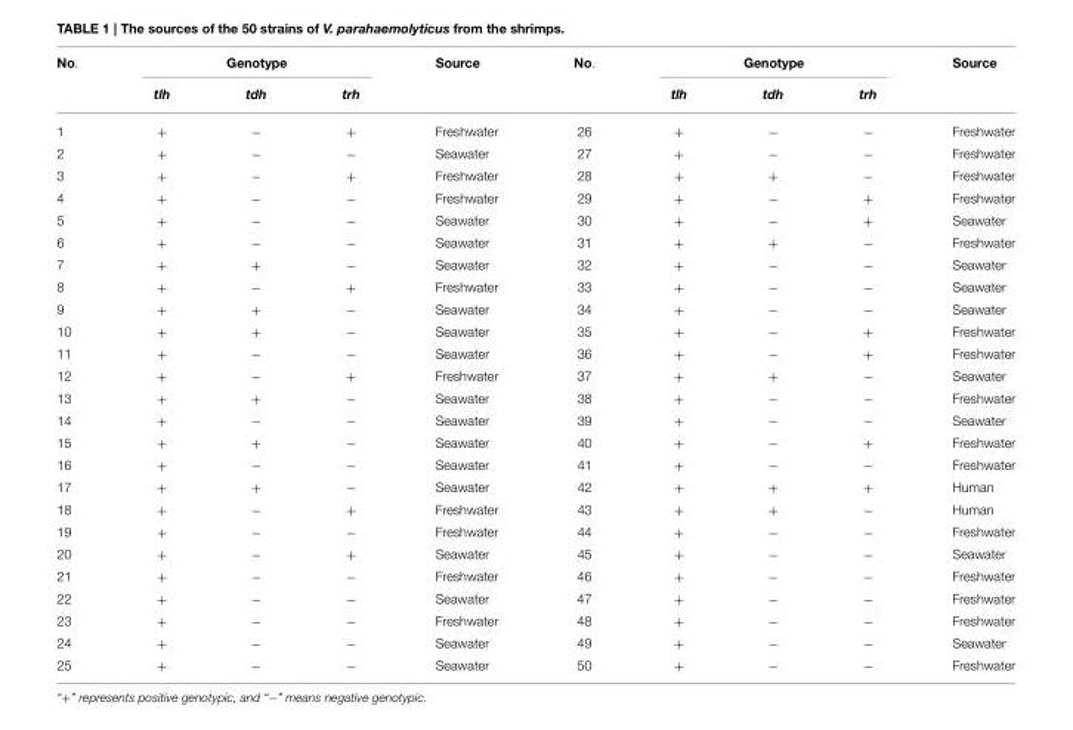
<table><thead><tr><td rowspan="2">No.</td><td colspan="3">Genotype</td><td rowspan="2">Source</td><td rowspan="2">No.</td><td colspan="3">Genotype</td><td rowspan="2">Source</td></tr><tr><td>tlh</td><td>tdh</td><td>trh</td><td>tlh</td><td>tdh</td><td>trh</td></tr></thead><tbody><tr><td>1</td><td>+</td><td>−</td><td>+</td><td>Freshwater</td><td>26</td><td>+</td><td>−</td><td>−</td><td>Freshwater</td></tr><tr><td>2</td><td>+</td><td>−</td><td>−</td><td>Seawater</td><td>27</td><td>+</td><td>−</td><td>−</td><td>Freshwater</td></tr><tr><td>3</td><td>+</td><td>−</td><td>+</td><td>Freshwater</td><td>28</td><td>+</td><td>+</td><td>−</td><td>Freshwater</td></tr><tr><td>4</td><td>+</td><td>−</td><td>−</td><td>Freshwater</td><td>29</td><td>+</td><td>−</td><td>+</td><td>Freshwater</td></tr><tr><td>5</td><td>+</td><td>−</td><td>−</td><td>Seawater</td><td>30</td><td>+</td><td>−</td><td>+</td><td>Seawater</td></tr><tr><td>6</td><td>+</td><td>−</td><td>−</td><td>Seawater</td><td>31</td><td>+</td><td>+</td><td>−</td><td>Freshwater</td></tr><tr><td>7</td><td>+</td><td>+</td><td>−</td><td>Seawater</td><td>32</td><td>+</td><td>−</td><td>−</td><td>Seawater</td></tr><tr><td>8</td><td>+</td><td>−</td><td>+</td><td>Freshwater</td><td>33</td><td>+</td><td>−</td><td>−</td><td>Seawater</td></tr><tr><td>9</td><td>+</td><td>+</td><td>−</td><td>Seawater</td><td>34</td><td>+</td><td>−</td><td>−</td><td>Seawater</td></tr><tr><td>10</td><td>+</td><td>+</td><td>−</td><td>Seawater</td><td>35</td><td>+</td><td>−</td><td>+</td><td>Freshwater</td></tr><tr><td>11</td><td>+</td><td>−</td><td>−</td><td>Seawater</td><td>36</td><td>+</td><td>−</td><td>+</td><td>Freshwater</td></tr><tr><td>12</td><td>+</td><td>−</td><td>+</td><td>Freshwater</td><td>37</td><td>+</td><td>+</td><td>−</td><td>Seawater</td></tr><tr><td>13</td><td>+</td><td>+</td><td>−</td><td>Seawater</td><td>38</td><td>+</td><td>−</td><td>−</td><td>Freshwater</td></tr><tr><td>14</td><td>+</td><td>−</td><td>−</td><td>Seawater</td><td>39</td><td>+</td><td>−</td><td>−</td><td>Seawater</td></tr><tr><td>15</td><td>+</td><td>+</td><td>−</td><td>Seawater</td><td>40</td><td>+</td><td>−</td><td>+</td><td>Freshwater</td></tr><tr><td>16</td><td>+</td><td>−</td><td>−</td><td>Seawater</td><td>41</td><td>+</td><td>−</td><td>−</td><td>Freshwater</td></tr><tr><td>17</td><td>+</td><td>+</td><td>−</td><td>Seawater</td><td>42</td><td>+</td><td>+</td><td>+</td><td>Human</td></tr><tr><td>18</td><td>+</td><td>−</td><td>+</td><td>Freshwater</td><td>43</td><td>+</td><td>+</td><td>−</td><td>Human</td></tr><tr><td>19</td><td>+</td><td>−</td><td>−</td><td>Freshwater</td><td>44</td><td>+</td><td>−</td><td>−</td><td>Freshwater</td></tr><tr><td>20</td><td>+</td><td>−</td><td>+</td><td>Seawater</td><td>45</td><td>+</td><td>−</td><td>−</td><td>Seawater</td></tr><tr><td>21</td><td>+</td><td>−</td><td>−</td><td>Freshwater</td><td>46</td><td>+</td><td>−</td><td>−</td><td>Freshwater</td></tr><tr><td>22</td><td>+</td><td>−</td><td>−</td><td>Seawater</td><td>47</td><td>+</td><td>−</td><td>−</td><td>Freshwater</td></tr><tr><td>23</td><td>+</td><td>−</td><td>−</td><td>Freshwater</td><td>48</td><td>+</td><td>−</td><td>−</td><td>Freshwater</td></tr><tr><td>24</td><td>+</td><td>−</td><td>−</td><td>Seawater</td><td>49</td><td>+</td><td>−</td><td>−</td><td>Seawater</td></tr><tr><td>25</td><td>+</td><td>−</td><td>−</td><td>Seawater</td><td>50</td><td>+</td><td>−</td><td>−</td><td>Freshwater</td></tr></tbody></table>